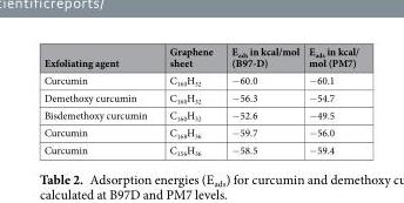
<table><thead><tr><td>Exfoliating agent</td><td>Graphene sheet</td><td>E<sub>ads</sub> in kcal/mol (B97-D)</td><td>E<sub>ads</sub> in kcal/ mol (PM7)</td></tr></thead><tbody><tr><td>Curcumin</td><td>C<sub>160</sub>H<sub>32</sub></td><td>−60.0</td><td>−60.1</td></tr><tr><td>Demethoxy curcumin</td><td>C<sub>160</sub>H<sub>32</sub></td><td>−56.3</td><td>−54.7</td></tr><tr><td>Bisdemethoxy curcumin</td><td>C<sub>160</sub>H<sub>32</sub></td><td>−52.6</td><td>−49.5</td></tr><tr><td>Curcumin</td><td>C<sub>168</sub>H<sub>36</sub></td><td>−59.7</td><td>−56.0</td></tr><tr><td>Curcumin</td><td>C<sub>156</sub>H<sub>36</sub></td><td>−58.5</td><td>−59.4</td></tr></tbody></table>